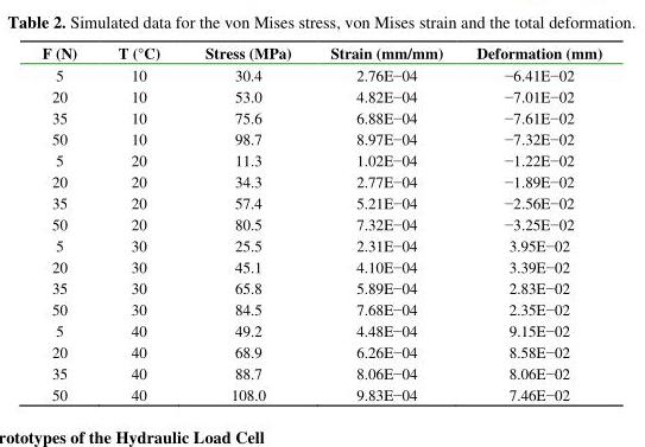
<table><thead><tr><td>F (N)</td><td>T (°C)</td><td>Stress (MPa)</td><td>Strain (mm/mm)</td><td>Deformation (mm)</td></tr></thead><tbody><tr><td>5</td><td>10</td><td>30.4</td><td>2.76E−04</td><td>−6.41E−02</td></tr><tr><td>20</td><td>10</td><td>53.0</td><td>4.82E−04</td><td>−7.01E−02</td></tr><tr><td>35</td><td>10</td><td>75.6</td><td>6.88E−04</td><td>−7.61E−02</td></tr><tr><td>50</td><td>10</td><td>98.7</td><td>8.97E−04</td><td>−7.32E−02</td></tr><tr><td>5</td><td>20</td><td>11.3</td><td>1.02E−04</td><td>−1.22E−02</td></tr><tr><td>20</td><td>20</td><td>34.3</td><td>2.77E−04</td><td>−1.89E−02</td></tr><tr><td>35</td><td>20</td><td>57.4</td><td>5.21E−04</td><td>−2.56E−02</td></tr><tr><td>50</td><td>20</td><td>80.5</td><td>7.32E−04</td><td>−3.25E−02</td></tr><tr><td>5</td><td>30</td><td>25.5</td><td>2.31E−04</td><td>3.95E−02</td></tr><tr><td>20</td><td>30</td><td>45.1</td><td>4.10E−04</td><td>3.39E−02</td></tr><tr><td>35</td><td>30</td><td>65.8</td><td>5.89E−04</td><td>2.83E−02</td></tr><tr><td>50</td><td>30</td><td>84.5</td><td>7.68E−04</td><td>2.35E−02</td></tr><tr><td>5</td><td>40</td><td>49.2</td><td>4.48E−04</td><td>9.15E−02</td></tr><tr><td>20</td><td>40</td><td>68.9</td><td>6.26E−04</td><td>8.58E−02</td></tr><tr><td>35</td><td>40</td><td>88.7</td><td>8.06E−04</td><td>8.06E−02</td></tr><tr><td>50</td><td>40</td><td>108.0</td><td>9.83E−04</td><td>7.46E−02</td></tr></tbody></table>